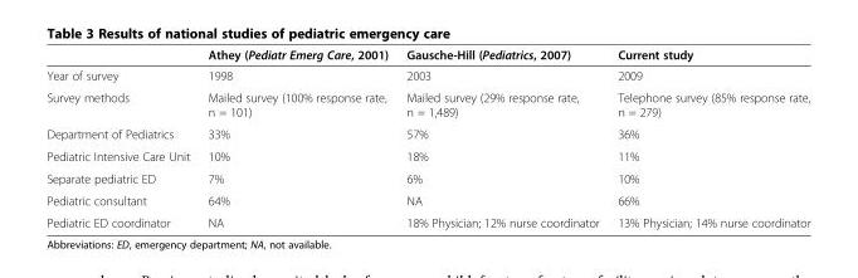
<table><thead><tr><td></td><td>Athey (Pediatr Emerg Care, 2001)</td><td>Gausche-Hill (Pediatrics, 2007)</td><td>Current study</td></tr></thead><tbody><tr><td>Year of survey</td><td>1998</td><td>2003</td><td>2009</td></tr><tr><td>Survey methods</td><td>Mailed survey (100% response rate, n = 101)</td><td>Mailed survey (29% response rate, n = 1,489)</td><td>Telephone survey (85% response rate, n = 279)</td></tr><tr><td>Department of Pediatrics</td><td>33%</td><td>57%</td><td>36%</td></tr><tr><td>Pediatric Intensive Care Unit</td><td>10%</td><td>18%</td><td>11%</td></tr><tr><td>Separate pediatric ED</td><td>7%</td><td>6%</td><td>10%</td></tr><tr><td>Pediatric consultant</td><td>64%</td><td>NA</td><td>66%</td></tr><tr><td>Pediatric ED coordinator</td><td>NA</td><td>18% Physician; 12% nurse coordinator</td><td>13% Physician; 14% nurse coordinator</td></tr></tbody></table>